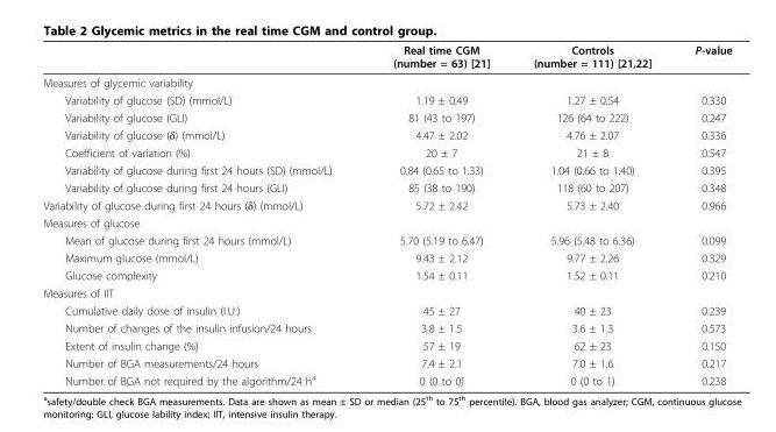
<table><thead><tr><td></td><td>Real time CGM (number = 63) [21]</td><td>Controls (number = 111) [21,22]</td><td>P-value</td></tr></thead><tbody><tr><td colspan="4">Measures of glycemic variability</td></tr><tr><td>Variability of glucose (SD) (mmol/L)</td><td>1.19 ± 0.49</td><td>1.27 ± 0.54</td><td>0.330</td></tr><tr><td>Variability of glucose (GLI)</td><td>81 (43 to 197)</td><td>126 (64 to 222)</td><td>0.247</td></tr><tr><td>Variability of glucose (δ) (mmol/L)</td><td>4.47 ± 2.02</td><td>4.76 ± 2.07</td><td>0.336</td></tr><tr><td>Coefficient of variation (%)</td><td>20 ± 7</td><td>21 ± 8</td><td>0.547</td></tr><tr><td>Variability of glucose during first 24 hours (SD) (mmol/L)</td><td>0.84 (0.65 to 1.33)</td><td>1.04 (0.66 to 1.40)</td><td>0.395</td></tr><tr><td>Variability of glucose during first 24 hours (GLI)</td><td>85 (38 to 190)</td><td>118 (60 to 207)</td><td>0.348</td></tr><tr><td>Variability of glucose during first 24 hours (δ) (mmol/L)</td><td>5.72 ± 2.42</td><td>5.73 ± 2.40</td><td>0.966</td></tr><tr><td colspan="4">Measures of glucose</td></tr><tr><td>Mean of glucose during first 24 hours (mmol/L)</td><td>5.70 (5.19 to 6.47)</td><td>5.96 (5.48 to 6.36)</td><td>0.099</td></tr><tr><td>Maximum glucose (mmol/L)</td><td>9.43 ± 2.12</td><td>9.77 ± 2.26</td><td>0.329</td></tr><tr><td>Glucose complexity</td><td>1.54 ± 0.11</td><td>1.52 ± 0.11</td><td>0.210</td></tr><tr><td colspan="4">Measures of IIT</td></tr><tr><td>Cumulative daily dose of insulin (I.U.)</td><td>45 ± 27</td><td>40 ± 23</td><td>0.239</td></tr><tr><td>Number of changes of the insulin infusion/24 hours</td><td>3.8 ± 1.5</td><td>3.6 ± 1.3</td><td>0.573</td></tr><tr><td>Extent of insulin change (%)</td><td>57 ± 19</td><td>62 ± 23</td><td>0.150</td></tr><tr><td>Number of BGA measurements/24 hours</td><td>7.4 ± 2.1</td><td>7.0 ± 1.6</td><td>0.217</td></tr><tr><td>Number of BGA not required by the algorithm/24 h<sup>a</sup></td><td>0 (0 to 0)</td><td>0 (0 to 1)</td><td>0.238</td></tr></tbody></table>